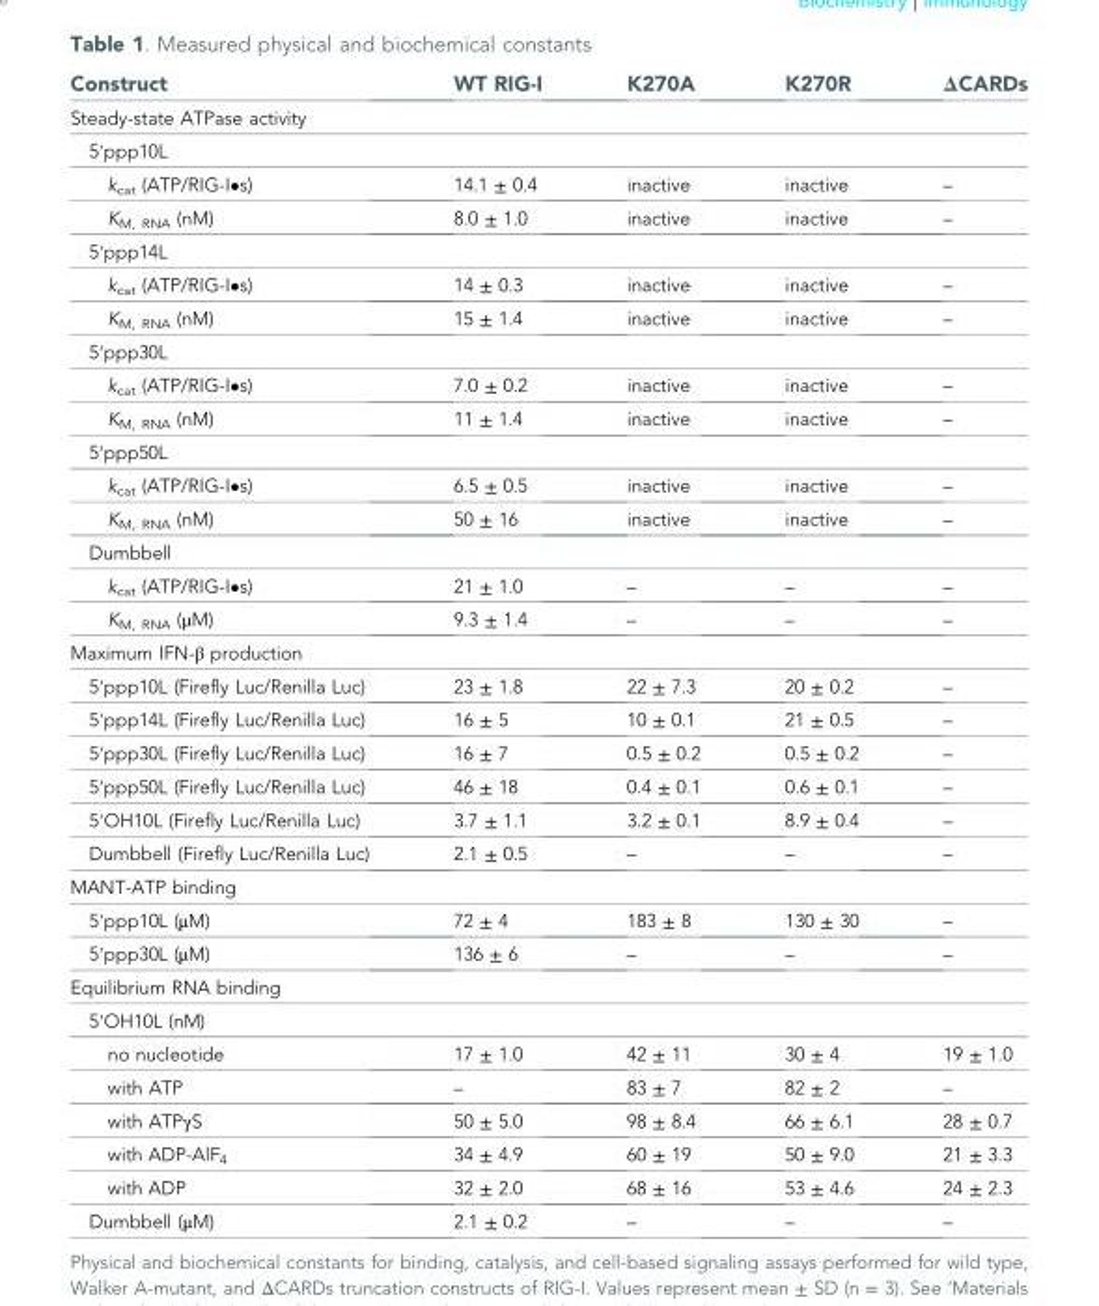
<table><thead><tr><td>Construct</td><td>WT RIG-I</td><td>K270A</td><td>K270R</td><td>ΔCARDs</td></tr></thead><tbody><tr><td colspan="5">Steady-state ATPase activity</td></tr><tr><td colspan="5">5′ppp10L</td></tr><tr><td>k<sub>cat</sub> (ATP/RIG-I•s)</td><td>14.1 ± 0.4</td><td>inactive</td><td>inactive</td><td>–</td></tr><tr><td>K<sub>M, RNA</sub> (nM)</td><td>8.0 ± 1.0</td><td>inactive</td><td>inactive</td><td>–</td></tr><tr><td colspan="5">5′ppp14L</td></tr><tr><td>k<sub>cat</sub> (ATP/RIG-I•s)</td><td>14 ± 0.3</td><td>inactive</td><td>inactive</td><td>–</td></tr><tr><td>K<sub>M, RNA</sub> (nM)</td><td>15 ± 1.4</td><td>inactive</td><td>inactive</td><td>–</td></tr><tr><td colspan="5">5′ppp30L</td></tr><tr><td>k<sub>cat</sub> (ATP/RIG-I•s)</td><td>7.0 ± 0.2</td><td>inactive</td><td>inactive</td><td>–</td></tr><tr><td>K<sub>M, RNA</sub> (nM)</td><td>11 ± 1.4</td><td>inactive</td><td>inactive</td><td>–</td></tr><tr><td colspan="5">5′ppp50L</td></tr><tr><td>k<sub>cat</sub> (ATP/RIG-I•s)</td><td>6.5 ± 0.5</td><td>inactive</td><td>inactive</td><td>–</td></tr><tr><td>K<sub>M, RNA</sub> (nM)</td><td>50 ± 16</td><td>inactive</td><td>inactive</td><td>–</td></tr><tr><td colspan="5">Dumbbell</td></tr><tr><td>k<sub>cat</sub> (ATP/RIG-I•s)</td><td>21 ± 1.0</td><td>–</td><td>–</td><td>–</td></tr><tr><td>K<sub>M, RNA</sub> (μM)</td><td>9.3 ± 1.4</td><td>–</td><td>–</td><td>–</td></tr><tr><td colspan="5">Maximum IFN-β production</td></tr><tr><td>5′ppp10L (Firefly Luc/Renilla Luc)</td><td>23 ± 1.8</td><td>22 ± 7.3</td><td>20 ± 0.2</td><td>–</td></tr><tr><td>5′ppp14L (Firefly Luc/Renilla Luc)</td><td>16 ± 5</td><td>10 ± 0.1</td><td>21 ± 0.5</td><td>–</td></tr><tr><td>5′ppp30L (Firefly Luc/Renilla Luc)</td><td>16 ± 7</td><td>0.5 ± 0.2</td><td>0.5 ± 0.2</td><td>–</td></tr><tr><td>5′ppp50L (Firefly Luc/Renilla Luc)</td><td>46 ± 18</td><td>0.4 ± 0.1</td><td>0.6 ± 0.1</td><td>–</td></tr><tr><td>5′OH10L (Firefly Luc/Renilla Luc)</td><td>3.7 ± 1.1</td><td>3.2 ± 0.1</td><td>8.9 ± 0.4</td><td>–</td></tr><tr><td>Dumbbell (Firefly Luc/Renilla Luc)</td><td>2.1 ± 0.5</td><td>–</td><td>–</td><td>–</td></tr><tr><td colspan="5">MANT-ATP binding</td></tr><tr><td>5′ppp10L (μM)</td><td>72 ± 4</td><td>183 ± 8</td><td>130 ± 30</td><td>–</td></tr><tr><td>5′ppp30L (μM)</td><td>136 ± 6</td><td>–</td><td>–</td><td>–</td></tr><tr><td colspan="5">Equilibrium RNA binding</td></tr><tr><td colspan="5">5′OH10L (nM)</td></tr><tr><td>no nucleotide</td><td>17 ± 1.0</td><td>42 ± 11</td><td>30 ± 4</td><td>19 ± 1.0</td></tr><tr><td>with ATP</td><td>–</td><td>83 ± 7</td><td>82 ± 2</td><td>–</td></tr><tr><td>with ATPγS</td><td>50 ± 5.0</td><td>98 ± 8.4</td><td>66 ± 6.1</td><td>28 ± 0.7</td></tr><tr><td>with ADP-AlF<sub>4</sub></td><td>34 ± 4.9</td><td>60 ± 19</td><td>50 ± 9.0</td><td>21 ± 3.3</td></tr><tr><td>with ADP</td><td>32 ± 2.0</td><td>68 ± 16</td><td>53 ± 4.6</td><td>24 ± 2.3</td></tr><tr><td>Dumbbell (μM)</td><td>2.1 ± 0.2</td><td>–</td><td>–</td><td>–</td></tr></tbody></table>